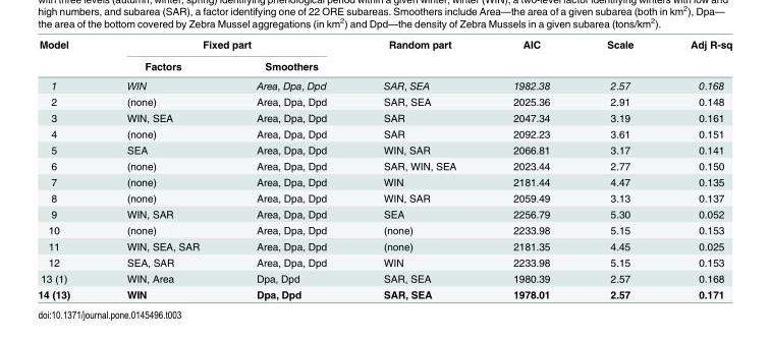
<table><thead><tr><td rowspan="2">Model</td><td colspan="2">Fixed part</td><td rowspan="2">Random part</td><td rowspan="2">AIC</td><td rowspan="2">Scale</td><td rowspan="2">Adj R-sq</td></tr><tr><td>Factors</td><td>Smoothers</td></tr></thead><tbody><tr><td>1</td><td>WIN</td><td>Area, Dpa, Dpd</td><td>SAR, SEA</td><td>1982.38</td><td>2.57</td><td>0.168</td></tr><tr><td>2</td><td>(none)</td><td>Area, Dpa, Dpd</td><td>SAR, SEA</td><td>2025.36</td><td>2.91</td><td>0.148</td></tr><tr><td>3</td><td>WIN, SEA</td><td>Area, Dpa, Dpd</td><td>SAR</td><td>2047.34</td><td>3.19</td><td>0.161</td></tr><tr><td>4</td><td>(none)</td><td>Area, Dpa, Dpd</td><td>SAR</td><td>2092.23</td><td>3.61</td><td>0.151</td></tr><tr><td>5</td><td>SEA</td><td>Area, Dpa, Dpd</td><td>WIN, SAR</td><td>2066.81</td><td>3.17</td><td>0.141</td></tr><tr><td>6</td><td>(none)</td><td>Area, Dpa, Dpd</td><td>SAR, WIN, SEA</td><td>2023.44</td><td>2.77</td><td>0.150</td></tr><tr><td>7</td><td>(none)</td><td>Area, Dpa, Dpd</td><td>WIN</td><td>2181.44</td><td>4.47</td><td>0.135</td></tr><tr><td>8</td><td>(none)</td><td>Area, Dpa, Dpd</td><td>WIN, SAR</td><td>2059.49</td><td>3.13</td><td>0.137</td></tr><tr><td>9</td><td>WIN, SAR</td><td>Area, Dpa, Dpd</td><td>SEA</td><td>2256.79</td><td>5.30</td><td>0.052</td></tr><tr><td>10</td><td>(none)</td><td>Area, Dpa, Dpd</td><td>(none)</td><td>2233.98</td><td>5.15</td><td>0.153</td></tr><tr><td>11</td><td>WIN, SEA, SAR</td><td>Area, Dpa, Dpd</td><td>(none)</td><td>2181.35</td><td>4.45</td><td>0.025</td></tr><tr><td>12</td><td>SEA, SAR</td><td>Area, Dpa, Dpd</td><td>WIN</td><td>2233.98</td><td>5.15</td><td>0.153</td></tr><tr><td>13 (1)</td><td>WIN, Area</td><td>Dpa, Dpd</td><td>SAR, SEA</td><td>1980.39</td><td>2.57</td><td>0.168</td></tr><tr><td>14 (13)</td><td>WIN</td><td>Dpa, Dpd</td><td>SAR, SEA</td><td>1978.01</td><td>2.57</td><td>0.171</td></tr></tbody></table>